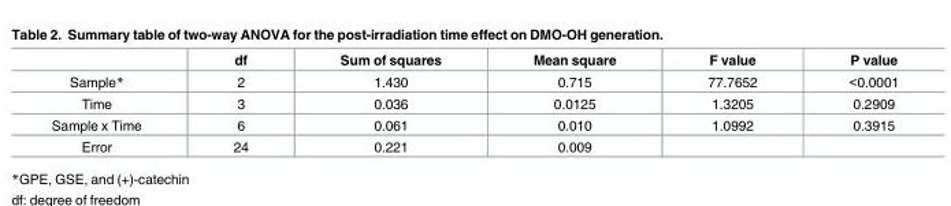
<table><thead><tr><td></td><td>df</td><td>Sum of squares</td><td>Mean square</td><td>F value</td><td>P value</td></tr></thead><tbody><tr><td>Sample*</td><td>2</td><td>1.430</td><td>0.715</td><td>77.7652</td><td>&lt;0.0001</td></tr><tr><td>Time</td><td>3</td><td>0.036</td><td>0.0125</td><td>1.3205</td><td>0.2909</td></tr><tr><td>Sample x Time</td><td>6</td><td>0.061</td><td>0.010</td><td>1.0992</td><td>0.3915</td></tr><tr><td>Error</td><td>24</td><td>0.221</td><td>0.009</td><td></td><td></td></tr></tbody></table>